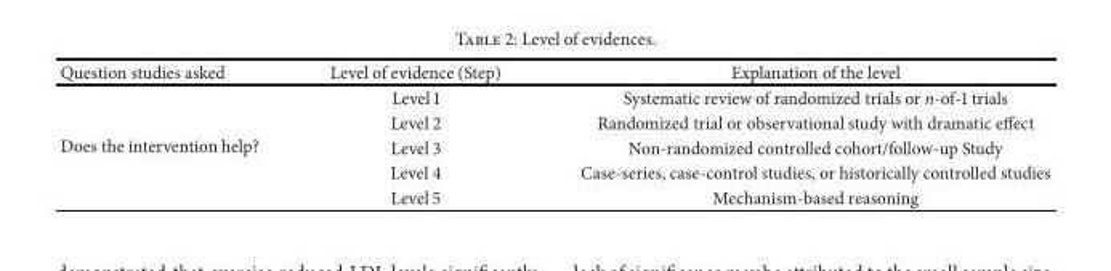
<table><thead><tr><td>Question studies asked</td><td>Level of evidence (Step)</td><td>Explanation of the level</td></tr></thead><tbody><tr><td rowspan="5">Does the intervention help?</td><td>Level 1</td><td>Systematic review of randomized trials or n-of-1 trials</td></tr><tr><td>Level 2</td><td>Randomized trial or observational study with dramatic effect</td></tr><tr><td>Level 3</td><td>Non-randomized controlled cohort/follow-up Study</td></tr><tr><td>Level 4</td><td>Case-series, case-control studies, or historically controlled studies</td></tr><tr><td>Level 5</td><td>Mechanism-based reasoning</td></tr></tbody></table>